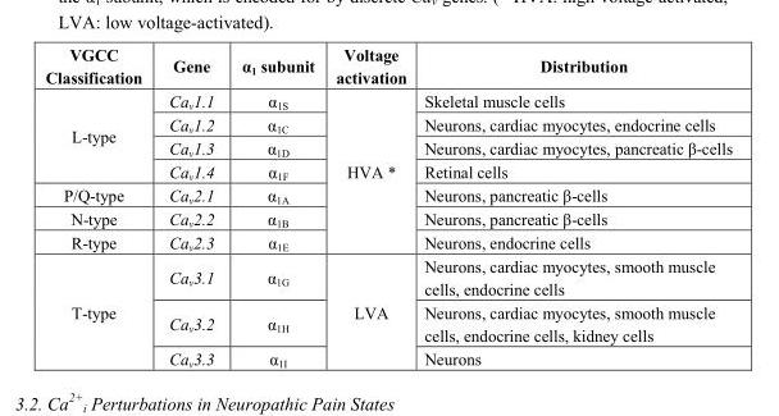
<table><thead><tr><td>VGCC Classification</td><td>Gene</td><td>α<sub>1</sub> subunit</td><td>Voltage activation</td><td>Distribution</td></tr></thead><tbody><tr><td rowspan="4">L-type</td><td>Ca<sub>v</sub>1.1</td><td>α<sub>1S</sub></td><td rowspan="7">HVA *</td><td>Skeletal muscle cells</td></tr><tr><td>Ca<sub>v</sub>1.2</td><td>α<sub>1C</sub></td><td>Neurons, cardiac myocytes, endocrine cells</td></tr><tr><td>Ca<sub>v</sub>1.3</td><td>α<sub>1D</sub></td><td>Neurons, cardiac myocytes, pancreatic β-cells</td></tr><tr><td>Ca<sub>v</sub>1.4</td><td>α<sub>1F</sub></td><td>Retinal cells</td></tr><tr><td>P/Q-type</td><td>Ca<sub>v</sub>2.1</td><td>α<sub>1A</sub></td><td>Neurons, pancreatic β-cells</td></tr><tr><td>N-type</td><td>Ca<sub>v</sub>2.2</td><td>α<sub>1B</sub></td><td>Neurons, pancreatic β-cells</td></tr><tr><td>R-type</td><td>Ca<sub>v</sub>2.3</td><td>α<sub>1E</sub></td><td>Neurons, endocrine cells</td></tr><tr><td rowspan="3">T-type</td><td>Ca<sub>v</sub>3.1</td><td>α<sub>1G</sub></td><td rowspan="3">LVA</td><td>Neurons, cardiac myocytes, smooth muscle cells, endocrine cells</td></tr><tr><td>Ca<sub>v</sub>3.2</td><td>α<sub>1H</sub></td><td>Neurons, cardiac myocytes, smooth muscle cells, endocrine cells, kidney cells</td></tr><tr><td>Ca<sub>v</sub>3.3</td><td>α<sub>1I</sub></td><td>Neurons</td></tr></tbody></table>